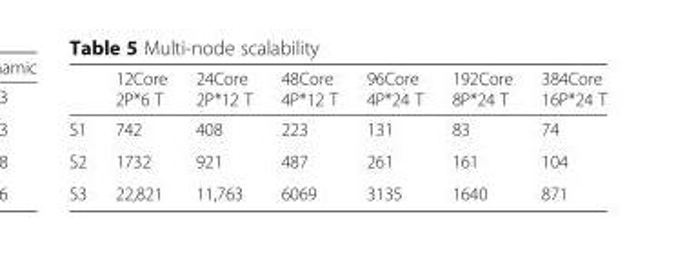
<table><thead><tr><td></td><td>12Core 2P*6 T</td><td>24Core 2P*12 T</td><td>48Core 4P*12 T</td><td>96Core 4P*24 T</td><td>192Core 8P*24 T</td><td>384Core 16P*24 T</td></tr></thead><tbody><tr><td>S1</td><td>742</td><td>408</td><td>223</td><td>131</td><td>83</td><td>74</td></tr><tr><td>S2</td><td>1732</td><td>921</td><td>487</td><td>261</td><td>161</td><td>104</td></tr><tr><td>S3</td><td>22,821</td><td>11,763</td><td>6069</td><td>3135</td><td>1640</td><td>871</td></tr></tbody></table>